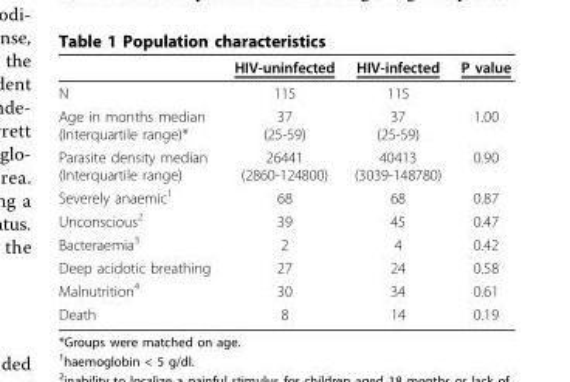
<table><thead><tr><td></td><td>HIV-uninfected</td><td>HIV-infected</td><td>P value</td></tr></thead><tbody><tr><td>N</td><td>115</td><td>115</td><td></td></tr><tr><td>Age in months median (Interquartile range)*</td><td>37 (25-59)</td><td>37 (25-59)</td><td>1.00</td></tr><tr><td>Parasite density median (Interquartile range)</td><td>26441 (2860-124800)</td><td>40413 (3039-148780)</td><td>0.90</td></tr><tr><td>Severely anaemic<sup>1</sup></td><td>68</td><td>68</td><td>0.87</td></tr><tr><td>Unconscious<sup>2</sup></td><td>39</td><td>45</td><td>0.47</td></tr><tr><td>Bacteraemia<sup>3</sup></td><td>2</td><td>4</td><td>0.42</td></tr><tr><td>Deep acidotic breathing</td><td>27</td><td>24</td><td>0.58</td></tr><tr><td>Malnutrition<sup>4</sup></td><td>30</td><td>34</td><td>0.61</td></tr><tr><td>Death</td><td>8</td><td>14</td><td>0.19</td></tr></tbody></table>